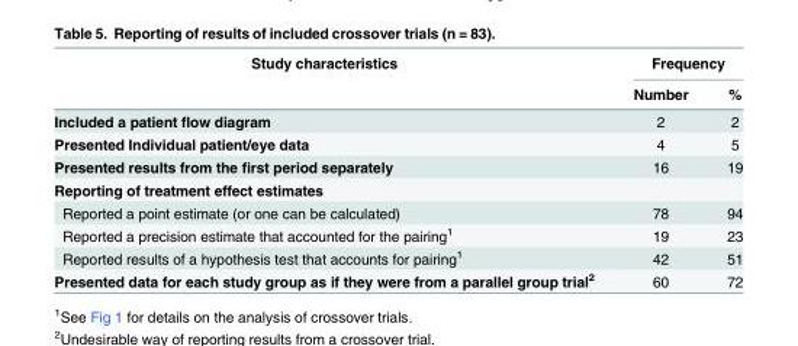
<table><thead><tr><td rowspan="2">Study characteristics</td><td colspan="2">Frequency</td></tr><tr><td>Number</td><td>%</td></tr></thead><tbody><tr><td>Included a patient flow diagram</td><td>2</td><td>2</td></tr><tr><td>Presented Individual patient/eye data</td><td>4</td><td>5</td></tr><tr><td>Presented results from the first period separately</td><td>16</td><td>19</td></tr><tr><td colspan="3">Reporting of treatment effect estimates</td></tr><tr><td>Reported a point estimate (or one can be calculated)</td><td>78</td><td>94</td></tr><tr><td>Reported a precision estimate that accounted for the pairing<sup>1</sup></td><td>19</td><td>23</td></tr><tr><td>Reported results of a hypothesis test that accounts for pairing<sup>1</sup></td><td>42</td><td>51</td></tr><tr><td>Presented data for each study group as if they were from a parallel group trial<sup>2</sup></td><td>60</td><td>72</td></tr></tbody></table>